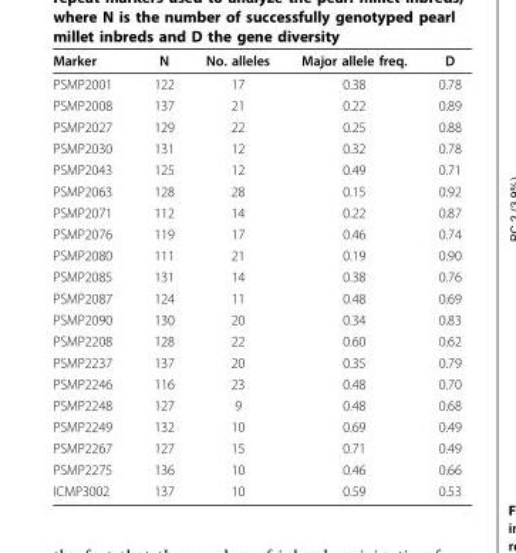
<table><thead><tr><td>Marker</td><td>N</td><td>No. alleles</td><td>Major allele freq.</td><td>D</td></tr></thead><tbody><tr><td>PSMP2001</td><td>122</td><td>17</td><td>0.38</td><td>0.78</td></tr><tr><td>PSMP2008</td><td>137</td><td>21</td><td>0.22</td><td>0.89</td></tr><tr><td>PSMP2027</td><td>129</td><td>22</td><td>0.25</td><td>0.88</td></tr><tr><td>PSMP2030</td><td>131</td><td>12</td><td>0.32</td><td>0.78</td></tr><tr><td>PSMP2043</td><td>125</td><td>12</td><td>0.49</td><td>0.71</td></tr><tr><td>PSMP2063</td><td>128</td><td>28</td><td>0.15</td><td>0.92</td></tr><tr><td>PSMP2071</td><td>112</td><td>14</td><td>0.22</td><td>0.87</td></tr><tr><td>PSMP2076</td><td>119</td><td>17</td><td>0.46</td><td>0.74</td></tr><tr><td>PSMP2080</td><td>111</td><td>21</td><td>0.19</td><td>0.90</td></tr><tr><td>PSMP2085</td><td>131</td><td>14</td><td>0.38</td><td>0.76</td></tr><tr><td>PSMP2087</td><td>124</td><td>11</td><td>0.48</td><td>0.69</td></tr><tr><td>PSMP2090</td><td>130</td><td>20</td><td>0.34</td><td>0.83</td></tr><tr><td>PSMP2208</td><td>128</td><td>22</td><td>0.60</td><td>0.62</td></tr><tr><td>PSMP2237</td><td>137</td><td>20</td><td>0.35</td><td>0.79</td></tr><tr><td>PSMP2246</td><td>116</td><td>23</td><td>0.48</td><td>0.70</td></tr><tr><td>PSMP2248</td><td>127</td><td>9</td><td>0.48</td><td>0.68</td></tr><tr><td>PSMP2249</td><td>132</td><td>10</td><td>0.69</td><td>0.49</td></tr><tr><td>PSMP2267</td><td>127</td><td>15</td><td>0.71</td><td>0.49</td></tr><tr><td>PSMP2275</td><td>136</td><td>10</td><td>0.46</td><td>0.66</td></tr><tr><td>ICMP3002</td><td>137</td><td>10</td><td>0.59</td><td>0.53</td></tr></tbody></table>